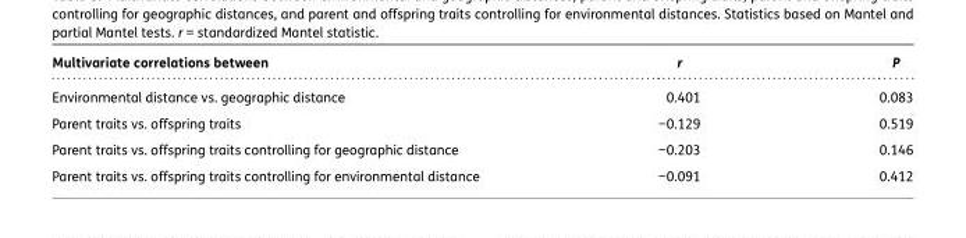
<table><thead><tr><td>Multivariate correlations between</td><td>r</td><td>P</td></tr></thead><tbody><tr><td>Environmental distance vs. geographic distance</td><td>0.401</td><td>0.083</td></tr><tr><td>Parent traits vs. offspring traits</td><td>−0.129</td><td>0.519</td></tr><tr><td>Parent traits vs. offspring traits controlling for geographic distance</td><td>−0.203</td><td>0.146</td></tr><tr><td>Parent traits vs. offspring traits controlling for environmental distance</td><td>−0.091</td><td>0.412</td></tr></tbody></table>